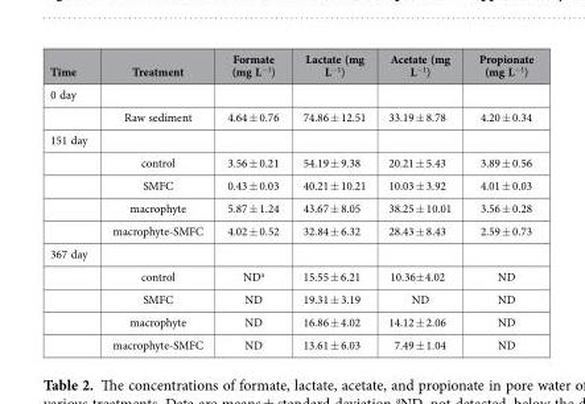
<table><thead><tr><td>Time</td><td>Treatment</td><td>Formate (mg L<sup>−1</sup>)</td><td>Lactate (mg L<sup>−1</sup>)</td><td>Acetate (mg L<sup>−1</sup>)</td><td>Propionate (mg L<sup>−1</sup>)</td></tr></thead><tbody><tr><td colspan="6">0 day</td></tr><tr><td></td><td>Raw sediment</td><td>4.64 ± 0.76</td><td>74.86 ± 12.51</td><td>33.19 ± 8.78</td><td>4.20 ± 0.34</td></tr><tr><td colspan="6">151 day</td></tr><tr><td></td><td>control</td><td>3.56 ± 0.21</td><td>54.19 ± 9.38</td><td>20.21 ± 5.43</td><td>3.89 ± 0.56</td></tr><tr><td></td><td>SMFC</td><td>0.43 ± 0.03</td><td>40.21 ± 10.21</td><td>10.03 ± 3.92</td><td>4.01 ± 0.03</td></tr><tr><td></td><td>macrophyte</td><td>5.87 ± 1.24</td><td>43.67 ± 8.05</td><td>38.25 ± 10.01</td><td>3.56 ± 0.28</td></tr><tr><td></td><td>macrophyte-SMFC</td><td>4.02 ± 0.52</td><td>32.84 ± 6.32</td><td>28.43 ± 8.43</td><td>2.59 ± 0.73</td></tr><tr><td colspan="6">367 day</td></tr><tr><td></td><td>control</td><td>ND<sup>a</sup></td><td>15.55 ± 6.21</td><td>10.36± 4.02</td><td>ND</td></tr><tr><td></td><td>SMFC</td><td>ND</td><td>19.31 ± 3.19</td><td>ND</td><td>ND</td></tr><tr><td></td><td>macrophyte</td><td>ND</td><td>16.86 ± 4.02</td><td>14.12 ± 2.06</td><td>ND</td></tr><tr><td></td><td>macrophyte-SMFC</td><td>ND</td><td>13.61 ± 6.03</td><td>7.49 ± 1.04</td><td>ND</td></tr></tbody></table>